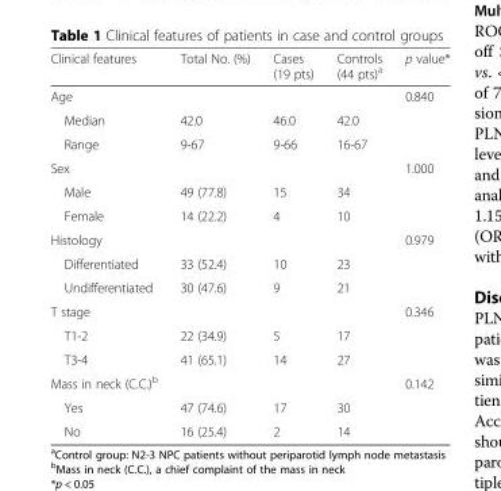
<table><thead><tr><td>Clinical features</td><td>Total No. (%)</td><td>Cases (19 pts)</td><td>Controls (44 pts)<sup>a</sup></td><td>p value*</td></tr></thead><tbody><tr><td>Age</td><td></td><td></td><td></td><td>0.840</td></tr><tr><td>Median</td><td>42.0</td><td>46.0</td><td>42.0</td><td></td></tr><tr><td>Range</td><td>9-67</td><td>9-66</td><td>16-67</td><td></td></tr><tr><td>Sex</td><td></td><td></td><td></td><td>1.000</td></tr><tr><td>Male</td><td>49 (77.8)</td><td>15</td><td>34</td><td></td></tr><tr><td>Female</td><td>14 (22.2)</td><td>4</td><td>10</td><td></td></tr><tr><td>Histology</td><td></td><td></td><td></td><td>0.979</td></tr><tr><td>Differentiated</td><td>33 (52.4)</td><td>10</td><td>23</td><td></td></tr><tr><td>Undifferentiated</td><td>30 (47.6)</td><td>9</td><td>21</td><td></td></tr><tr><td>T stage</td><td></td><td></td><td></td><td>0.346</td></tr><tr><td>T1-2</td><td>22 (34.9)</td><td>5</td><td>17</td><td></td></tr><tr><td>T3-4</td><td>41 (65.1)</td><td>14</td><td>27</td><td></td></tr><tr><td>Mass in neck (C.C.)<sup>b</sup></td><td></td><td></td><td></td><td>0.142</td></tr><tr><td>Yes</td><td>47 (74.6)</td><td>17</td><td>30</td><td></td></tr><tr><td>No</td><td>16 (25.4)</td><td>2</td><td>14</td><td></td></tr></tbody></table>